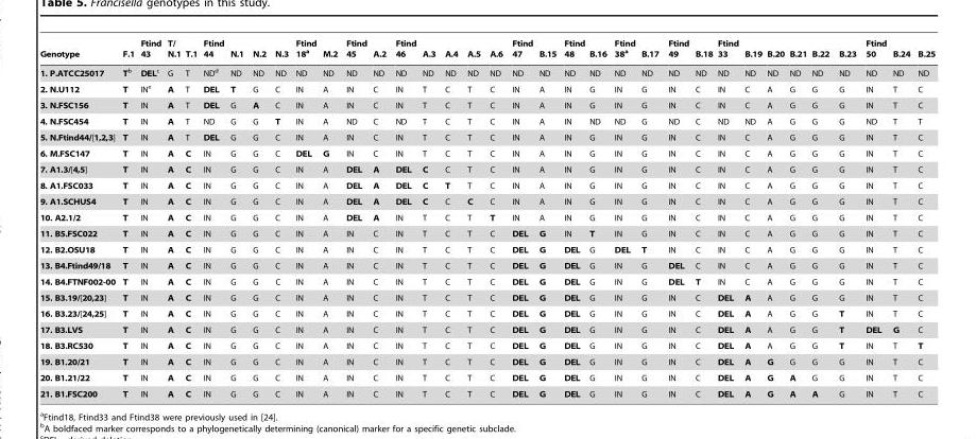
<table><thead><tr><td>Genotype</td><td>F.1</td><td>Ftind 43</td><td>T/ N.1</td><td>T.1</td><td>Ftind 44</td><td>N.1</td><td>N.2</td><td>N.3</td><td>Ftind 18<sup>a</sup></td><td>M.2</td><td>Ftind 45</td><td>A.2</td><td>Ftind 46</td><td>A.3</td><td>A.4</td><td>A.5</td><td>A.6</td><td>Ftind 47</td><td>B.15</td><td>Ftind 48</td><td>B.16</td><td>Ftind 38<sup>a</sup></td><td>B.17</td><td>Ftind 49</td><td>B.18</td><td>Ftind 33</td><td>B.19</td><td>B.20</td><td>B.21</td><td>B.22</td><td>B.23</td><td>Ftind 50</td><td>B.24</td><td>B.25</td></tr></thead><tbody><tr><td>1. P.ATCC25017</td><td>Tb</td><td>DELc</td><td>G</td><td>T</td><td>ND<sup>d</sup></td><td>ND</td><td>ND</td><td>ND</td><td>ND</td><td>ND</td><td>ND</td><td>ND</td><td>ND</td><td>ND</td><td>ND</td><td>ND</td><td>ND</td><td>ND</td><td>ND</td><td>ND</td><td>ND</td><td>ND</td><td>ND</td><td>ND</td><td>ND</td><td>ND</td><td>ND</td><td>ND</td><td>ND</td><td>ND</td><td>ND</td><td>ND</td><td>ND</td><td>ND</td></tr><tr><td>2. N.U112</td><td>T</td><td>IN<sup>e</sup></td><td>A</td><td>T</td><td>DEL</td><td>T</td><td>G</td><td>C</td><td>IN</td><td>A</td><td>IN</td><td>C</td><td>IN</td><td>T</td><td>C</td><td>T</td><td>C</td><td>IN</td><td>A</td><td>IN</td><td>G</td><td>IN</td><td>G</td><td>IN</td><td>C</td><td>IN</td><td>C</td><td>A</td><td>G</td><td>G</td><td>G</td><td>IN</td><td>T</td><td>C</td></tr><tr><td>3. N.FSC156</td><td>T</td><td>IN</td><td>A</td><td>T</td><td>DEL</td><td>G</td><td>A</td><td>C</td><td>IN</td><td>A</td><td>IN</td><td>C</td><td>IN</td><td>T</td><td>C</td><td>T</td><td>C</td><td>IN</td><td>A</td><td>IN</td><td>G</td><td>IN</td><td>G</td><td>IN</td><td>C</td><td>IN</td><td>C</td><td>A</td><td>G</td><td>G</td><td>G</td><td>IN</td><td>T</td><td>C</td></tr><tr><td>4. N.FSC454</td><td>T</td><td>IN</td><td>A</td><td>T</td><td>ND</td><td>G</td><td>G</td><td>T</td><td>IN</td><td>A</td><td>ND</td><td>C</td><td>ND</td><td>T</td><td>C</td><td>T</td><td>C</td><td>IN</td><td>A</td><td>IN</td><td>ND</td><td>ND</td><td>G</td><td>ND</td><td>C</td><td>ND</td><td>ND</td><td>A</td><td>G</td><td>G</td><td>G</td><td>ND</td><td>T</td><td>T</td></tr><tr><td>5. N.Ftind44/[1,2,3]</td><td>T</td><td>IN</td><td>A</td><td>T</td><td>DEL</td><td>G</td><td>G</td><td>C</td><td>IN</td><td>A</td><td>IN</td><td>C</td><td>IN</td><td>T</td><td>C</td><td>T</td><td>C</td><td>IN</td><td>A</td><td>IN</td><td>G</td><td>IN</td><td>G</td><td>IN</td><td>C</td><td>IN</td><td>C</td><td>A</td><td>G</td><td>G</td><td>G</td><td>IN</td><td>T</td><td>C</td></tr><tr><td>6. M.FSC147</td><td>T</td><td>IN</td><td>A</td><td>C</td><td>IN</td><td>G</td><td>G</td><td>C</td><td>DEL</td><td>G</td><td>IN</td><td>C</td><td>IN</td><td>T</td><td>C</td><td>T</td><td>C</td><td>IN</td><td>A</td><td>IN</td><td>G</td><td>IN</td><td>G</td><td>IN</td><td>C</td><td>IN</td><td>C</td><td>A</td><td>G</td><td>G</td><td>G</td><td>IN</td><td>T</td><td>C</td></tr><tr><td>7. A1.3/[4,5]</td><td>T</td><td>IN</td><td>A</td><td>C</td><td>IN</td><td>G</td><td>G</td><td>C</td><td>IN</td><td>A</td><td>DEL</td><td>A</td><td>DEL</td><td>C</td><td>C</td><td>T</td><td>C</td><td>IN</td><td>A</td><td>IN</td><td>G</td><td>IN</td><td>G</td><td>IN</td><td>C</td><td>IN</td><td>C</td><td>A</td><td>G</td><td>G</td><td>G</td><td>IN</td><td>T</td><td>C</td></tr><tr><td>8. A1.FSC033</td><td>T</td><td>IN</td><td>A</td><td>C</td><td>IN</td><td>G</td><td>G</td><td>C</td><td>IN</td><td>A</td><td>DEL</td><td>A</td><td>DEL</td><td>C</td><td>T</td><td>T</td><td>C</td><td>IN</td><td>A</td><td>IN</td><td>G</td><td>IN</td><td>G</td><td>IN</td><td>C</td><td>IN</td><td>C</td><td>A</td><td>G</td><td>G</td><td>G</td><td>IN</td><td>T</td><td>C</td></tr><tr><td>9. A1.SCHUS4</td><td>T</td><td>IN</td><td>A</td><td>C</td><td>IN</td><td>G</td><td>G</td><td>C</td><td>IN</td><td>A</td><td>DEL</td><td>A</td><td>DEL</td><td>C</td><td>C</td><td>C</td><td>C</td><td>IN</td><td>A</td><td>IN</td><td>G</td><td>IN</td><td>G</td><td>IN</td><td>C</td><td>IN</td><td>C</td><td>A</td><td>G</td><td>G</td><td>G</td><td>IN</td><td>T</td><td>C</td></tr><tr><td>10. A2.1/2</td><td>T</td><td>IN</td><td>A</td><td>C</td><td>IN</td><td>G</td><td>G</td><td>C</td><td>IN</td><td>A</td><td>DEL</td><td>A</td><td>IN</td><td>T</td><td>C</td><td>T</td><td>T</td><td>IN</td><td>A</td><td>IN</td><td>G</td><td>IN</td><td>G</td><td>IN</td><td>C</td><td>IN</td><td>C</td><td>A</td><td>G</td><td>G</td><td>G</td><td>IN</td><td>T</td><td>C</td></tr><tr><td>11. B5.FSC022</td><td>T</td><td>IN</td><td>A</td><td>C</td><td>IN</td><td>G</td><td>G</td><td>C</td><td>IN</td><td>A</td><td>IN</td><td>C</td><td>IN</td><td>T</td><td>C</td><td>T</td><td>C</td><td>DEL</td><td>G</td><td>IN</td><td>T</td><td>IN</td><td>G</td><td>IN</td><td>C</td><td>IN</td><td>C</td><td>A</td><td>G</td><td>G</td><td>G</td><td>IN</td><td>T</td><td>C</td></tr><tr><td>12. B2.OSU18</td><td>T</td><td>IN</td><td>A</td><td>C</td><td>IN</td><td>G</td><td>G</td><td>C</td><td>IN</td><td>A</td><td>IN</td><td>C</td><td>IN</td><td>T</td><td>C</td><td>T</td><td>C</td><td>DEL</td><td>G</td><td>DEL</td><td>G</td><td>DEL</td><td>T</td><td>IN</td><td>C</td><td>IN</td><td>C</td><td>A</td><td>G</td><td>G</td><td>G</td><td>IN</td><td>T</td><td>C</td></tr><tr><td>13. B4.Ftind49/18</td><td>T</td><td>IN</td><td>A</td><td>C</td><td>IN</td><td>G</td><td>G</td><td>C</td><td>IN</td><td>A</td><td>IN</td><td>C</td><td>IN</td><td>T</td><td>C</td><td>T</td><td>C</td><td>DEL</td><td>G</td><td>DEL</td><td>G</td><td>IN</td><td>G</td><td>DEL</td><td>C</td><td>IN</td><td>C</td><td>A</td><td>G</td><td>G</td><td>G</td><td>IN</td><td>T</td><td>C</td></tr><tr><td>14. B4.FTNF002-00</td><td>T</td><td>IN</td><td>A</td><td>C</td><td>IN</td><td>G</td><td>G</td><td>C</td><td>IN</td><td>A</td><td>IN</td><td>C</td><td>IN</td><td>T</td><td>C</td><td>T</td><td>C</td><td>DEL</td><td>G</td><td>DEL</td><td>G</td><td>IN</td><td>G</td><td>DEL</td><td>T</td><td>IN</td><td>C</td><td>A</td><td>G</td><td>G</td><td>G</td><td>IN</td><td>T</td><td>C</td></tr><tr><td>15. B3.19/[20,23]</td><td>T</td><td>IN</td><td>A</td><td>C</td><td>IN</td><td>G</td><td>G</td><td>C</td><td>IN</td><td>A</td><td>IN</td><td>C</td><td>IN</td><td>T</td><td>C</td><td>T</td><td>C</td><td>DEL</td><td>G</td><td>DEL</td><td>G</td><td>IN</td><td>G</td><td>IN</td><td>C</td><td>DEL</td><td>A</td><td>A</td><td>G</td><td>G</td><td>G</td><td>IN</td><td>T</td><td>C</td></tr><tr><td>16. B3.23/[24,25]</td><td>T</td><td>IN</td><td>A</td><td>C</td><td>IN</td><td>G</td><td>G</td><td>C</td><td>IN</td><td>A</td><td>IN</td><td>C</td><td>IN</td><td>T</td><td>C</td><td>T</td><td>C</td><td>DEL</td><td>G</td><td>DEL</td><td>G</td><td>IN</td><td>G</td><td>IN</td><td>C</td><td>DEL</td><td>A</td><td>A</td><td>G</td><td>G</td><td>T</td><td>IN</td><td>T</td><td>C</td></tr><tr><td>17. B3.LVS</td><td>T</td><td>IN</td><td>A</td><td>C</td><td>IN</td><td>G</td><td>G</td><td>C</td><td>IN</td><td>A</td><td>IN</td><td>C</td><td>IN</td><td>T</td><td>C</td><td>T</td><td>C</td><td>DEL</td><td>G</td><td>DEL</td><td>G</td><td>IN</td><td>G</td><td>IN</td><td>C</td><td>DEL</td><td>A</td><td>A</td><td>G</td><td>G</td><td>T</td><td>DEL</td><td>G</td><td>C</td></tr><tr><td>18. B3.RC530</td><td>T</td><td>IN</td><td>A</td><td>C</td><td>IN</td><td>G</td><td>G</td><td>C</td><td>IN</td><td>A</td><td>IN</td><td>C</td><td>IN</td><td>T</td><td>C</td><td>T</td><td>C</td><td>DEL</td><td>G</td><td>DEL</td><td>G</td><td>IN</td><td>G</td><td>IN</td><td>C</td><td>DEL</td><td>A</td><td>A</td><td>G</td><td>G</td><td>T</td><td>IN</td><td>T</td><td>T</td></tr><tr><td>19. B1.20/21</td><td>T</td><td>IN</td><td>A</td><td>C</td><td>IN</td><td>G</td><td>G</td><td>C</td><td>IN</td><td>A</td><td>IN</td><td>C</td><td>IN</td><td>T</td><td>C</td><td>T</td><td>C</td><td>DEL</td><td>G</td><td>DEL</td><td>G</td><td>IN</td><td>G</td><td>IN</td><td>C</td><td>DEL</td><td>A</td><td>G</td><td>G</td><td>G</td><td>G</td><td>IN</td><td>T</td><td>C</td></tr><tr><td>20. B1.21/22</td><td>T</td><td>IN</td><td>A</td><td>C</td><td>IN</td><td>G</td><td>G</td><td>C</td><td>IN</td><td>A</td><td>IN</td><td>C</td><td>IN</td><td>T</td><td>C</td><td>T</td><td>C</td><td>DEL</td><td>G</td><td>DEL</td><td>G</td><td>IN</td><td>G</td><td>IN</td><td>C</td><td>DEL</td><td>A</td><td>G</td><td>A</td><td>G</td><td>G</td><td>IN</td><td>T</td><td>C</td></tr><tr><td>21. B1.FSC200</td><td>T</td><td>IN</td><td>A</td><td>C</td><td>IN</td><td>G</td><td>G</td><td>C</td><td>IN</td><td>A</td><td>IN</td><td>C</td><td>IN</td><td>T</td><td>C</td><td>T</td><td>C</td><td>DEL</td><td>G</td><td>DEL</td><td>G</td><td>IN</td><td>G</td><td>IN</td><td>C</td><td>DEL</td><td>A</td><td>G</td><td>A</td><td>A</td><td>G</td><td>IN</td><td>T</td><td>C</td></tr></tbody></table>